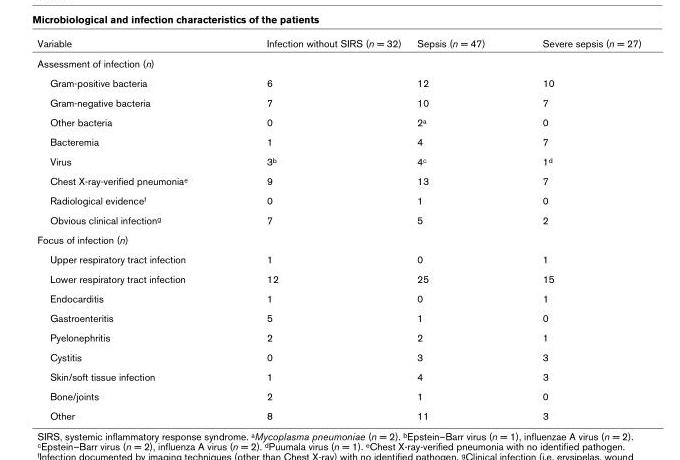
<table><thead><tr><td>Variable</td><td>Infection without SIRS (n = 32)</td><td>Sepsis (n = 47)</td><td>Severe sepsis (n = 27)</td></tr></thead><tbody><tr><td colspan="4">Assessment of infection (n)</td></tr><tr><td>Gram-positive bacteria</td><td>6</td><td>12</td><td>10</td></tr><tr><td>Gram-negative bacteria</td><td>7</td><td>10</td><td>7</td></tr><tr><td>Other bacteria</td><td>0</td><td>2a</td><td>0</td></tr><tr><td>Bacteremia</td><td>1</td><td>4</td><td>7</td></tr><tr><td>Virus</td><td>3b</td><td>4c</td><td>1d</td></tr><tr><td>Chest X-ray-verified pneumoniae</td><td>9</td><td>13</td><td>7</td></tr><tr><td>Radiological evidencef</td><td>0</td><td>1</td><td>0</td></tr><tr><td>Obvious clinical infectiong</td><td>7</td><td>5</td><td>2</td></tr><tr><td colspan="4">Focus of infection (n)</td></tr><tr><td>Upper respiratory tract infection</td><td>1</td><td>0</td><td>1</td></tr><tr><td>Lower respiratory tract infection</td><td>12</td><td>25</td><td>15</td></tr><tr><td>Endocarditis</td><td>1</td><td>0</td><td>1</td></tr><tr><td>Gastroenteritis</td><td>5</td><td>1</td><td>0</td></tr><tr><td>Pyelonephritis</td><td>2</td><td>2</td><td>1</td></tr><tr><td>Cystitis</td><td>0</td><td>3</td><td>3</td></tr><tr><td>Skin/soft tissue infection</td><td>1</td><td>4</td><td>3</td></tr><tr><td>Bone/joints</td><td>2</td><td>1</td><td>0</td></tr><tr><td>Other</td><td>8</td><td>11</td><td>3</td></tr></tbody></table>